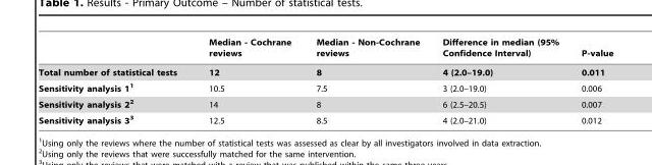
<table><thead><tr><td></td><td>Median - Cochrane reviews</td><td>Median - Non-Cochrane reviews</td><td>Difference in median (95% Confidence Interval)</td><td>P-value</td></tr></thead><tbody><tr><td>Total number of statistical tests</td><td>12</td><td>8</td><td>4 (2.0–19.0)</td><td>0.011</td></tr><tr><td>Sensitivity analysis 11</td><td>10.5</td><td>7.5</td><td>3 (2.0–19.0)</td><td>0.006</td></tr><tr><td>Sensitivity analysis 22</td><td>14</td><td>8</td><td>6 (2.5–20.5)</td><td>0.007</td></tr><tr><td>Sensitivity analysis 33</td><td>12.5</td><td>8.5</td><td>4 (2.0–21.0)</td><td>0.012</td></tr></tbody></table>